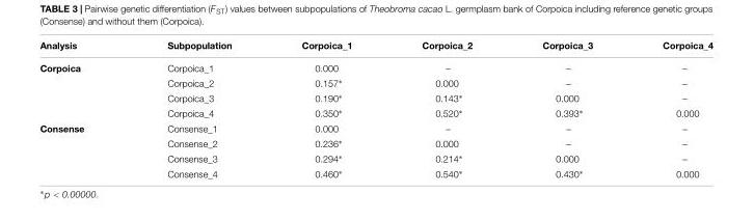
<table><thead><tr><td>Analysis</td><td>Subpopulation</td><td>Corpoica_1</td><td>Corpoica_2</td><td>Corpoica_3</td><td>Corpoica_4</td></tr></thead><tbody><tr><td rowspan="4">Corpoica</td><td>Corpoica_1</td><td>0.000</td><td>–</td><td>–</td><td>–</td></tr><tr><td>Corpoica_2</td><td>0.157∗</td><td>0.000</td><td>–</td><td>–</td></tr><tr><td>Corpoica_3</td><td>0.190∗</td><td>0.143∗</td><td>0.000</td><td>–</td></tr><tr><td>Corpoica_4</td><td>0.350∗</td><td>0.520∗</td><td>0.393∗</td><td>0.000</td></tr><tr><td rowspan="4">Consense</td><td>Consense_1</td><td>0.000</td><td>–</td><td>–</td><td>–</td></tr><tr><td>Consense_2</td><td>0.236∗</td><td>0.000</td><td>–</td><td>–</td></tr><tr><td>Consense_3</td><td>0.294∗</td><td>0.214∗</td><td>0.000</td><td>–</td></tr><tr><td>Consense_4</td><td>0.460∗</td><td>0.540∗</td><td>0.430∗</td><td>0.000</td></tr></tbody></table>